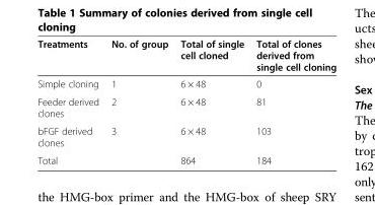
<table><thead><tr><td>Treatments</td><td>No. of group</td><td>Total of single cell cloned</td><td>Total of clones derived from single cell cloning</td></tr></thead><tbody><tr><td>Simple cloning</td><td>1</td><td>6 × 48</td><td>0</td></tr><tr><td>Feeder derived clones</td><td>2</td><td>6 × 48</td><td>81</td></tr><tr><td>bFGF derived clones</td><td>3</td><td>6 × 48</td><td>103</td></tr><tr><td>Total</td><td></td><td>864</td><td>184</td></tr></tbody></table>